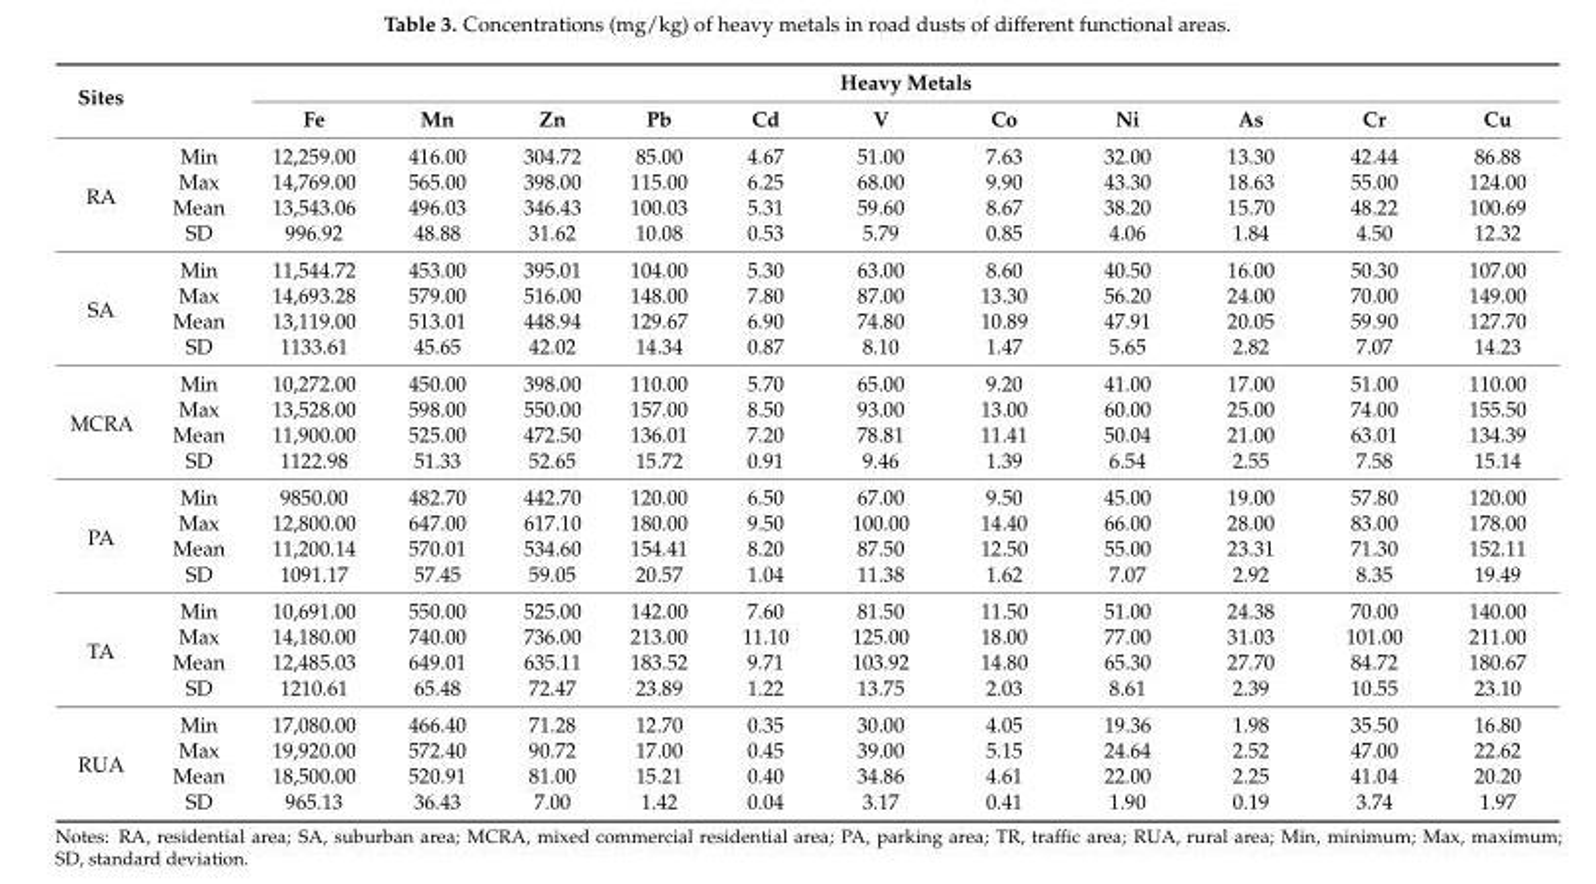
<table><thead><tr><td rowspan="2">Sites</td><td rowspan="2"></td><td colspan="11">Heavy Metals</td></tr><tr><td>Fe</td><td>Mn</td><td>Zn</td><td>Pb</td><td>Cd</td><td>V</td><td>Co</td><td>Ni</td><td>As</td><td>Cr</td><td>Cu</td></tr></thead><tbody><tr><td rowspan="4">RA</td><td>Min</td><td>12,259.00</td><td>416.00</td><td>304.72</td><td>85.00</td><td>4.67</td><td>51.00</td><td>7.63</td><td>32.00</td><td>13.30</td><td>42.44</td><td>86.88</td></tr><tr><td>Max</td><td>14,769.00</td><td>565.00</td><td>398.00</td><td>115.00</td><td>6.25</td><td>68.00</td><td>9.90</td><td>43.30</td><td>18.63</td><td>55.00</td><td>124.00</td></tr><tr><td>Mean</td><td>13,543.06</td><td>496.03</td><td>346.43</td><td>100.03</td><td>5.31</td><td>59.60</td><td>8.67</td><td>38.20</td><td>15.70</td><td>48.22</td><td>100.69</td></tr><tr><td>SD</td><td>996.92</td><td>48.88</td><td>31.62</td><td>10.08</td><td>0.53</td><td>5.79</td><td>0.85</td><td>4.06</td><td>1.84</td><td>4.50</td><td>12.32</td></tr><tr><td rowspan="4">SA</td><td>Min</td><td>11,544.72</td><td>453.00</td><td>395.01</td><td>104.00</td><td>5.30</td><td>63.00</td><td>8.60</td><td>40.50</td><td>16.00</td><td>50.30</td><td>107.00</td></tr><tr><td>Max</td><td>14,693.28</td><td>579.00</td><td>516.00</td><td>148.00</td><td>7.80</td><td>87.00</td><td>13.30</td><td>56.20</td><td>24.00</td><td>70.00</td><td>149.00</td></tr><tr><td>Mean</td><td>13,119.00</td><td>513.01</td><td>448.94</td><td>129.67</td><td>6.90</td><td>74.80</td><td>10.89</td><td>47.91</td><td>20.05</td><td>59.90</td><td>127.70</td></tr><tr><td>SD</td><td>1133.61</td><td>45.65</td><td>42.02</td><td>14.34</td><td>0.87</td><td>8.10</td><td>1.47</td><td>5.65</td><td>2.82</td><td>7.07</td><td>14.23</td></tr><tr><td rowspan="4">MCRA</td><td>Min</td><td>10,272.00</td><td>450.00</td><td>398.00</td><td>110.00</td><td>5.70</td><td>65.00</td><td>9.20</td><td>41.00</td><td>17.00</td><td>51.00</td><td>110.00</td></tr><tr><td>Max</td><td>13,528.00</td><td>598.00</td><td>550.00</td><td>157.00</td><td>8.50</td><td>93.00</td><td>13.00</td><td>60.00</td><td>25.00</td><td>74.00</td><td>155.50</td></tr><tr><td>Mean</td><td>11,900.00</td><td>525.00</td><td>472.50</td><td>136.01</td><td>7.20</td><td>78.81</td><td>11.41</td><td>50.04</td><td>21.00</td><td>63.01</td><td>134.39</td></tr><tr><td>SD</td><td>1122.98</td><td>51.33</td><td>52.65</td><td>15.72</td><td>0.91</td><td>9.46</td><td>1.39</td><td>6.54</td><td>2.55</td><td>7.58</td><td>15.14</td></tr><tr><td rowspan="4">PA</td><td>Min</td><td>9850.00</td><td>482.70</td><td>442.70</td><td>120.00</td><td>6.50</td><td>67.00</td><td>9.50</td><td>45.00</td><td>19.00</td><td>57.80</td><td>120.00</td></tr><tr><td>Max</td><td>12,800.00</td><td>647.00</td><td>617.10</td><td>180.00</td><td>9.50</td><td>100.00</td><td>14.40</td><td>66.00</td><td>28.00</td><td>83.00</td><td>178.00</td></tr><tr><td>Mean</td><td>11,200.14</td><td>570.01</td><td>534.60</td><td>154.41</td><td>8.20</td><td>87.50</td><td>12.50</td><td>55.00</td><td>23.31</td><td>71.30</td><td>152.11</td></tr><tr><td>SD</td><td>1091.17</td><td>57.45</td><td>59.05</td><td>20.57</td><td>1.04</td><td>11.38</td><td>1.62</td><td>7.07</td><td>2.92</td><td>8.35</td><td>19.49</td></tr><tr><td rowspan="4">TA</td><td>Min</td><td>10,691.00</td><td>550.00</td><td>525.00</td><td>142.00</td><td>7.60</td><td>81.50</td><td>11.50</td><td>51.00</td><td>24.38</td><td>70.00</td><td>140.00</td></tr><tr><td>Max</td><td>14,180.00</td><td>740.00</td><td>736.00</td><td>213.00</td><td>11.10</td><td>125.00</td><td>18.00</td><td>77.00</td><td>31.03</td><td>101.00</td><td>211.00</td></tr><tr><td>Mean</td><td>12,485.03</td><td>649.01</td><td>635.11</td><td>183.52</td><td>9.71</td><td>103.92</td><td>14.80</td><td>65.30</td><td>27.70</td><td>84.72</td><td>180.67</td></tr><tr><td>SD</td><td>1210.61</td><td>65.48</td><td>72.47</td><td>23.89</td><td>1.22</td><td>13.75</td><td>2.03</td><td>8.61</td><td>2.39</td><td>10.55</td><td>23.10</td></tr><tr><td rowspan="4">RUA</td><td>Min</td><td>17,080.00</td><td>466.40</td><td>71.28</td><td>12.70</td><td>0.35</td><td>30.00</td><td>4.05</td><td>19.36</td><td>1.98</td><td>35.50</td><td>16.80</td></tr><tr><td>Max</td><td>19,920.00</td><td>572.40</td><td>90.72</td><td>17.00</td><td>0.45</td><td>39.00</td><td>5.15</td><td>24.64</td><td>2.52</td><td>47.00</td><td>22.62</td></tr><tr><td>Mean</td><td>18,500.00</td><td>520.91</td><td>81.00</td><td>15.21</td><td>0.40</td><td>34.86</td><td>4.61</td><td>22.00</td><td>2.25</td><td>41.04</td><td>20.20</td></tr><tr><td>SD</td><td>965.13</td><td>36.43</td><td>7.00</td><td>1.42</td><td>0.04</td><td>3.17</td><td>0.41</td><td>1.90</td><td>0.19</td><td>3.74</td><td>1.97</td></tr></tbody></table>